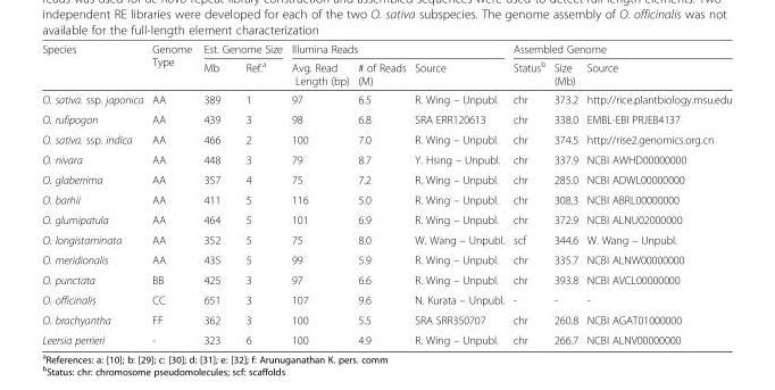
<table><thead><tr><td rowspan="2">Species</td><td rowspan="2">Genome Type</td><td colspan="2">Est. Genome Size</td><td colspan="3">Illumina Reads</td><td colspan="3">Assembled Genome</td></tr><tr><td>Mb</td><td>Ref.<sup>a</sup></td><td>Avg. Read Length (bp)</td><td># of Reads (M)</td><td>Source</td><td>Status<sup>b</sup></td><td>Size (Mb)</td><td>Source</td></tr></thead><tbody><tr><td>O. sativa. ssp. japonica</td><td>AA</td><td>389</td><td>1</td><td>97</td><td>6.5</td><td>R. Wing – Unpubl.</td><td>chr</td><td>373.2</td><td>http://rice.plantbiology.msu.edu</td></tr><tr><td>O. rufipogon</td><td>AA</td><td>439</td><td>3</td><td>98</td><td>6.8</td><td>SRA ERR120613</td><td>chr</td><td>338.0</td><td>EMBL-EBI PRJEB4137</td></tr><tr><td>O. sativa. ssp. indica</td><td>AA</td><td>466</td><td>2</td><td>100</td><td>7.0</td><td>R. Wing – Unpubl.</td><td>chr</td><td>374.5</td><td>http://rise2.genomics.org.cn</td></tr><tr><td>O. nivara</td><td>AA</td><td>448</td><td>3</td><td>79</td><td>8.7</td><td>Y. Hsing – Unpubl.</td><td>chr</td><td>337.9</td><td>NCBI AWHD00000000</td></tr><tr><td>O. glaberrima</td><td>AA</td><td>357</td><td>4</td><td>75</td><td>7.2</td><td>R. Wing – Unpubl.</td><td>chr</td><td>285.0</td><td>NCBI ADWL00000000</td></tr><tr><td>O. barhii</td><td>AA</td><td>411</td><td>5</td><td>116</td><td>5.0</td><td>R. Wing – Unpubl.</td><td>chr</td><td>308.3</td><td>NCBI ABRL00000000</td></tr><tr><td>O. glumipatula</td><td>AA</td><td>464</td><td>5</td><td>101</td><td>6.9</td><td>R. Wing – Unpubl.</td><td>chr</td><td>372.9</td><td>NCBI ALNU02000000</td></tr><tr><td>O. longistaminata</td><td>AA</td><td>352</td><td>5</td><td>75</td><td>8.0</td><td>W. Wang – Unpubl.</td><td>scf</td><td>344.6</td><td>W. Wang – Unpubl.</td></tr><tr><td>O. meridionalis</td><td>AA</td><td>435</td><td>5</td><td>99</td><td>5.9</td><td>R. Wing – Unpubl.</td><td>chr</td><td>335.7</td><td>NCBI ALNW00000000</td></tr><tr><td>O. punctata</td><td>BB</td><td>425</td><td>3</td><td>97</td><td>6.6</td><td>R. Wing – Unpubl.</td><td>chr</td><td>393.8</td><td>NCBI AVCL00000000</td></tr><tr><td>O. officinalis</td><td>CC</td><td>651</td><td>3</td><td>107</td><td>9.6</td><td>N. Kurata – Unpubl.</td><td>-</td><td>-</td><td>-</td></tr><tr><td>O. brachyantha</td><td>FF</td><td>362</td><td>3</td><td>100</td><td>5.5</td><td>SRA SRR350707</td><td>chr</td><td>260.8</td><td>NCBI AGAT01000000</td></tr><tr><td>Leersia perrieri</td><td>-</td><td>323</td><td>6</td><td>100</td><td>4.9</td><td>R. Wing – Unpubl.</td><td>chr</td><td>266.7</td><td>NCBI ALNV00000000</td></tr></tbody></table>